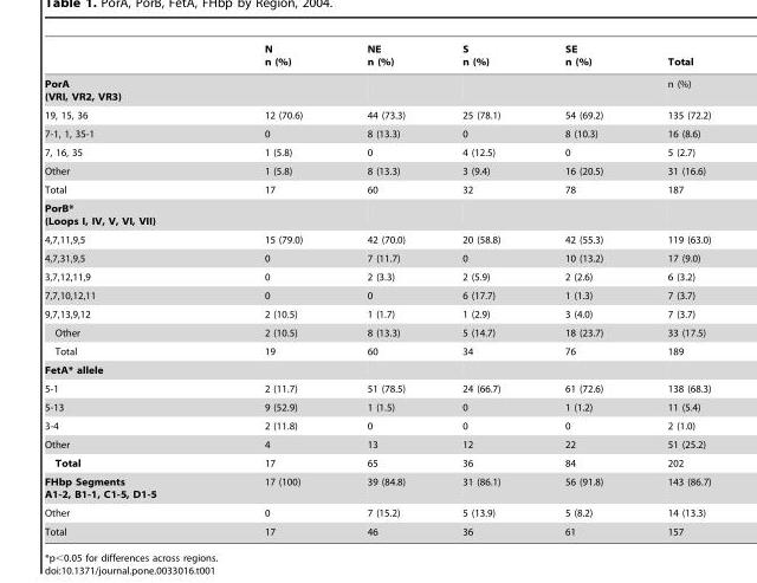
<table><thead><tr><td></td><td>N n (%)</td><td>NE n (%)</td><td>S n (%)</td><td>SE n (%)</td><td>Total</td></tr></thead><tbody><tr><td>PorA (VRI, VR2, VR3)</td><td></td><td></td><td></td><td></td><td>n (%)</td></tr><tr><td>19, 15, 36</td><td>12 (70.6)</td><td>44 (73.3)</td><td>25 (78.1)</td><td>54 (69.2)</td><td>135 (72.2)</td></tr><tr><td>7-1, 1, 35-1</td><td>0</td><td>8 (13.3)</td><td>0</td><td>8 (10.3)</td><td>16 (8.6)</td></tr><tr><td>7, 16, 35</td><td>1 (5.8)</td><td>0</td><td>4 (12.5)</td><td>0</td><td>5 (2.7)</td></tr><tr><td>Other</td><td>1 (5.8)</td><td>8 (13.3)</td><td>3 (9.4)</td><td>16 (20.5)</td><td>31 (16.6)</td></tr><tr><td>Total</td><td>17</td><td>60</td><td>32</td><td>78</td><td>187</td></tr><tr><td colspan="6">PorB* (Loops I, IV, V, VI, VII)</td></tr><tr><td>4,7,11,9,5</td><td>15 (79.0)</td><td>42 (70.0)</td><td>20 (58.8)</td><td>42 (55.3)</td><td>119 (63.0)</td></tr><tr><td>4,7,31,9,5</td><td>0</td><td>7 (11.7)</td><td>0</td><td>10 (13.2)</td><td>17 (9.0)</td></tr><tr><td>3,7,12,11,9</td><td>0</td><td>2 (3.3)</td><td>2 (5.9)</td><td>2 (2.6)</td><td>6 (3.2)</td></tr><tr><td>7,7,10,12,11</td><td>0</td><td>0</td><td>6 (17.7)</td><td>1 (1.3)</td><td>7 (3.7)</td></tr><tr><td>9,7,13,9,12</td><td>2 (10.5)</td><td>1 (1.7)</td><td>1 (2.9)</td><td>3 (4.0)</td><td>7 (3.7)</td></tr><tr><td>Other</td><td>2 (10.5)</td><td>8 (13.3)</td><td>5 (14.7)</td><td>18 (23.7)</td><td>33 (17.5)</td></tr><tr><td>Total</td><td>19</td><td>60</td><td>34</td><td>76</td><td>189</td></tr><tr><td colspan="6">FetA* allele</td></tr><tr><td>5-1</td><td>2 (11.7)</td><td>51 (78.5)</td><td>24 (66.7)</td><td>61 (72.6)</td><td>138 (68.3)</td></tr><tr><td>5-13</td><td>9 (52.9)</td><td>1 (1.5)</td><td>0</td><td>1 (1.2)</td><td>11 (5.4)</td></tr><tr><td>3-4</td><td>2 (11.8)</td><td>0</td><td>0</td><td>0</td><td>2 (1.0)</td></tr><tr><td>Other</td><td>4</td><td>13</td><td>12</td><td>22</td><td>51 (25.2)</td></tr><tr><td>Total</td><td>17</td><td>65</td><td>36</td><td>84</td><td>202</td></tr><tr><td>FHbp Segments A1-2, B1-1, C1-5, D1-5</td><td>17 (100)</td><td>39 (84.8)</td><td>31 (86.1)</td><td>56 (91.8)</td><td>143 (86.7)</td></tr><tr><td>Other</td><td>0</td><td>7 (15.2)</td><td>5 (13.9)</td><td>5 (8.2)</td><td>14 (13.3)</td></tr><tr><td>Total</td><td>17</td><td>46</td><td>36</td><td>61</td><td>157</td></tr></tbody></table>